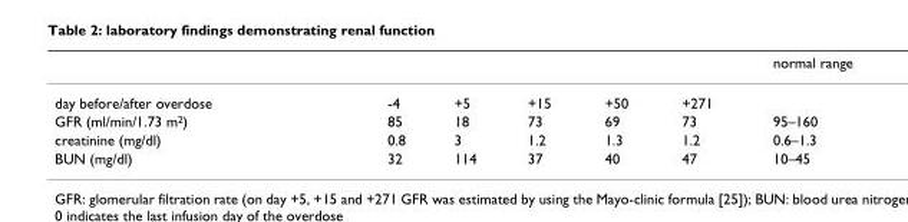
<table><thead><tr><td></td><td></td><td></td><td></td><td></td><td></td><td>normal range</td></tr></thead><tbody><tr><td>day before/after overdose</td><td>-4</td><td>+5</td><td>+15</td><td>+50</td><td>+271</td><td></td></tr><tr><td>GFR (ml/min/1.73 m2)</td><td>85</td><td>18</td><td>73</td><td>69</td><td>73</td><td>95–160</td></tr><tr><td>creatinine (mg/dl)</td><td>0.8</td><td>3</td><td>1.2</td><td>1.3</td><td>1.2</td><td>0.6–1.3</td></tr><tr><td>BUN (mg/dl)</td><td>32</td><td>114</td><td>37</td><td>40</td><td>47</td><td>10–45</td></tr></tbody></table>